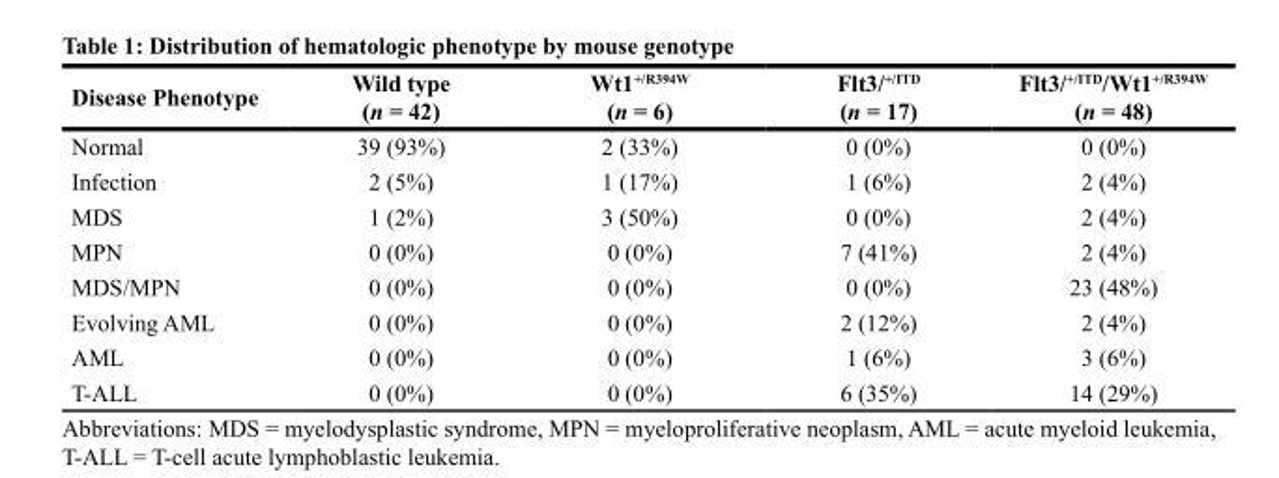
<table><thead><tr><td>Disease Phenotype</td><td>Wild type (n = 42)</td><td>Wt1<sup>+/R394W</sup> (n = 6)</td><td>Flt3/<sup>+/ITD</sup> (n = 17)</td><td>Flt3/<sup>+/ITD</sup>/Wt1<sup>+/R394W</sup> (n = 48)</td></tr></thead><tbody><tr><td>Normal</td><td>39 (93%)</td><td>2 (33%)</td><td>0 (0%)</td><td>0 (0%)</td></tr><tr><td>Infection</td><td>2 (5%)</td><td>1 (17%)</td><td>1 (6%)</td><td>2 (4%)</td></tr><tr><td>MDS</td><td>1 (2%)</td><td>3 (50%)</td><td>0 (0%)</td><td>2 (4%)</td></tr><tr><td>MPN</td><td>0 (0%)</td><td>0 (0%)</td><td>7 (41%)</td><td>2 (4%)</td></tr><tr><td>MDS/MPN</td><td>0 (0%)</td><td>0 (0%)</td><td>0 (0%)</td><td>23 (48%)</td></tr><tr><td>Evolving AML</td><td>0 (0%)</td><td>0 (0%)</td><td>2 (12%)</td><td>2 (4%)</td></tr><tr><td>AML</td><td>0 (0%)</td><td>0 (0%)</td><td>1 (6%)</td><td>3 (6%)</td></tr><tr><td>T-ALL</td><td>0 (0%)</td><td>0 (0%)</td><td>6 (35%)</td><td>14 (29%)</td></tr></tbody></table>